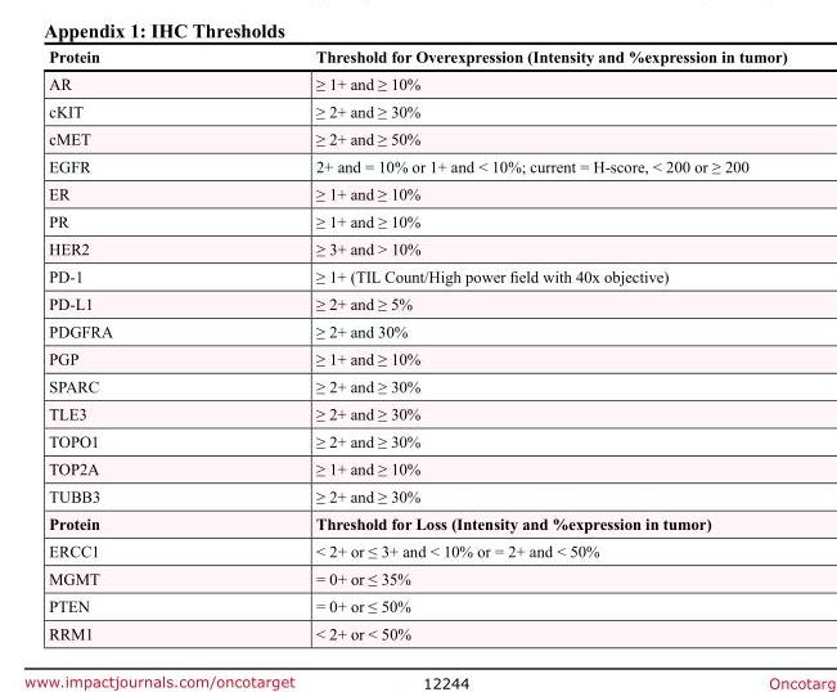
<table><thead><tr><td>Protein</td><td>Threshold for Overexpression (Intensity and %expression in tumor)</td></tr></thead><tbody><tr><td>AR</td><td>≥ 1+ and ≥ 10%</td></tr><tr><td>cKIT</td><td>≥ 2+ and ≥ 30%</td></tr><tr><td>cMET</td><td>≥ 2+ and ≥ 50%</td></tr><tr><td>EGFR</td><td>2+ and = 10% or 1+ and &lt; 10%; current = H-score, &lt; 200 or ≥ 200</td></tr><tr><td>ER</td><td>≥ 1+ and ≥ 10%</td></tr><tr><td>PR</td><td>≥ 1+ and ≥ 10%</td></tr><tr><td>HER2</td><td>≥ 3+ and &gt; 10%</td></tr><tr><td>PD-1</td><td>≥ 1+ (TIL Count/High power field with 40x objective)</td></tr><tr><td>PD-L1</td><td>≥ 2+ and ≥ 5%</td></tr><tr><td>PDGFRA</td><td>≥ 2+ and 30%</td></tr><tr><td>PGP</td><td>≥ 1+ and ≥ 10%</td></tr><tr><td>SPARC</td><td>≥ 2+ and ≥ 30%</td></tr><tr><td>TLE3</td><td>≥ 2+ and ≥ 30%</td></tr><tr><td>TOPO1</td><td>≥ 2+ and ≥ 30%</td></tr><tr><td>TOP2A</td><td>≥ 1+ and ≥ 10%</td></tr><tr><td>TUBB3</td><td>≥ 2+ and ≥ 30%</td></tr><tr><td>Protein</td><td>Threshold for Loss (Intensity and %expression in tumor)</td></tr><tr><td>ERCC1</td><td>&lt; 2+ or ≤ 3+ and &lt; 10% or = 2+ and &lt; 50%</td></tr><tr><td>MGMT</td><td>= 0+ or ≤ 35%</td></tr><tr><td>PTEN</td><td>= 0+ or ≤ 50%</td></tr><tr><td>RRM1</td><td>&lt; 2+ or &lt; 50%</td></tr></tbody></table>